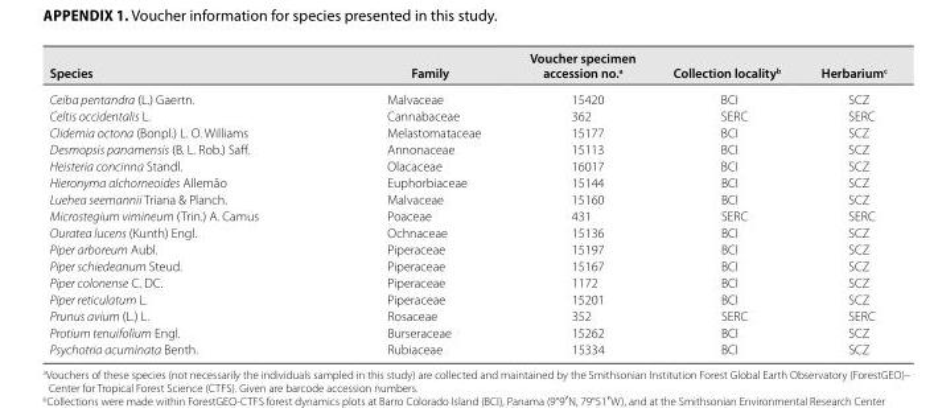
<table><thead><tr><td>Species</td><td>Family</td><td>Voucher specimen accession no.<sup>a</sup></td><td>Collection locality<sup>b</sup></td><td>Herbarium<sup>c</sup></td></tr></thead><tbody><tr><td>Ceiba pentandra (L.) Gaertn.</td><td>Malvaceae</td><td>15420</td><td>BCI</td><td>SCZ</td></tr><tr><td>Celtis occidentalis L.</td><td>Cannabaceae</td><td>362</td><td>SERC</td><td>SERC</td></tr><tr><td>Clidemia octona (Bonpl.) L. O. Williams</td><td>Melastomataceae</td><td>15177</td><td>BCI</td><td>SCZ</td></tr><tr><td>Desmopsis panamensis (B. L. Rob.) Saff.</td><td>Annonaceae</td><td>15113</td><td>BCI</td><td>SCZ</td></tr><tr><td>Heisteria concinna Standl.</td><td>Olacaceae</td><td>16017</td><td>BCI</td><td>SCZ</td></tr><tr><td>Hieronyma alchorneoides Allemão</td><td>Euphorbiaceae</td><td>15144</td><td>BCI</td><td>SCZ</td></tr><tr><td>Luehea seemannii Triana &amp; Planch.</td><td>Malvaceae</td><td>15160</td><td>BCI</td><td>SCZ</td></tr><tr><td>Microstegium vimineum (Trin.) A. Camus</td><td>Poaceae</td><td>431</td><td>SERC</td><td>SERC</td></tr><tr><td>Ouratea lucens (Kunth) Engl.</td><td>Ochnaceae</td><td>15136</td><td>BCI</td><td>SCZ</td></tr><tr><td>Piper arboreum Aubl.</td><td>Piperaceae</td><td>15197</td><td>BCI</td><td>SCZ</td></tr><tr><td>Piper schiedeanum Steud.</td><td>Piperaceae</td><td>15167</td><td>BCI</td><td>SCZ</td></tr><tr><td>Piper colonense C. DC.</td><td>Piperaceae</td><td>1172</td><td>BCI</td><td>SCZ</td></tr><tr><td>Piper reticulatum L.</td><td>Piperaceae</td><td>15201</td><td>BCI</td><td>SCZ</td></tr><tr><td>Prunus avium (L.) L.</td><td>Rosaceae</td><td>352</td><td>SERC</td><td>SERC</td></tr><tr><td>Protium tenuifolium Engl.</td><td>Burseraceae</td><td>15262</td><td>BCI</td><td>SCZ</td></tr><tr><td>Psychotria acuminata Benth.</td><td>Rubiaceae</td><td>15334</td><td>BCI</td><td>SCZ</td></tr></tbody></table>